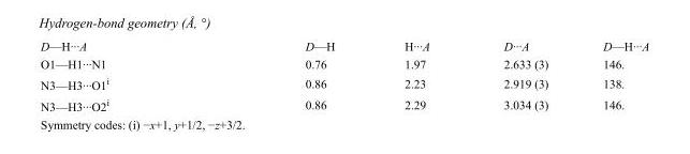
<table><tbody><tr><td>D—H···A</td><td>D—H</td><td>H···A</td><td>D···A</td><td>D—H···A</td></tr><tr><td>O1—H1···N1</td><td>0.76</td><td>1.97</td><td>2.633 (3)</td><td>146.</td></tr><tr><td>N3—H3···O1<sup>i</sup></td><td>0.86</td><td>2.23</td><td>2.919 (3)</td><td>138.</td></tr><tr><td>N3—H3···O2<sup>i</sup></td><td>0.86</td><td>2.29</td><td>3.034 (3)</td><td>146.</td></tr></tbody></table>